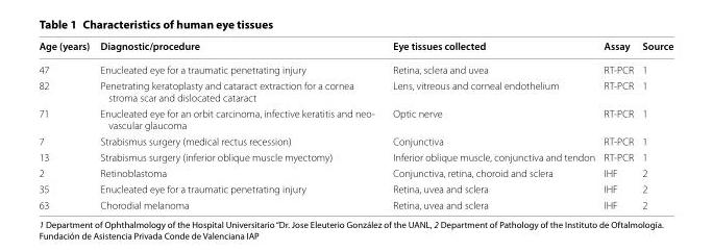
<table><thead><tr><td>Age (years)</td><td>Diagnostic/procedure</td><td>Eye tissues collected</td><td>Assay</td><td>Source</td></tr></thead><tbody><tr><td>47</td><td>Enucleated eye for a traumatic penetrating injury</td><td>Retina, sclera and uvea</td><td>RT‑PCR</td><td>1</td></tr><tr><td>82</td><td>Penetrating keratoplasty and cataract extraction for a cornea stroma scar and dislocated cataract</td><td>Lens, vitreous and corneal endothelium</td><td>RT‑PCR</td><td>1</td></tr><tr><td>71</td><td>Enucleated eye for an orbit carcinoma, infective keratitis and neo‑ vascular glaucoma</td><td>Optic nerve</td><td>RT‑PCR</td><td>1</td></tr><tr><td>7</td><td>Strabismus surgery (medical rectus recession)</td><td>Conjunctiva</td><td>RT‑PCR</td><td>1</td></tr><tr><td>13</td><td>Strabismus surgery (inferior oblique muscle myectomy)</td><td>Inferior oblique muscle, conjunctiva and tendon</td><td>RT‑PCR</td><td>1</td></tr><tr><td>2</td><td>Retinoblastoma</td><td>Conjunctiva, retina, choroid and sclera</td><td>IHF</td><td>2</td></tr><tr><td>35</td><td>Enucleated eye for a traumatic penetrating injury</td><td>Retina, uvea and sclera</td><td>IHF</td><td>2</td></tr><tr><td>63</td><td>Chorodial melanoma</td><td>Retina, uvea and sclera</td><td>IHF</td><td>2</td></tr></tbody></table>